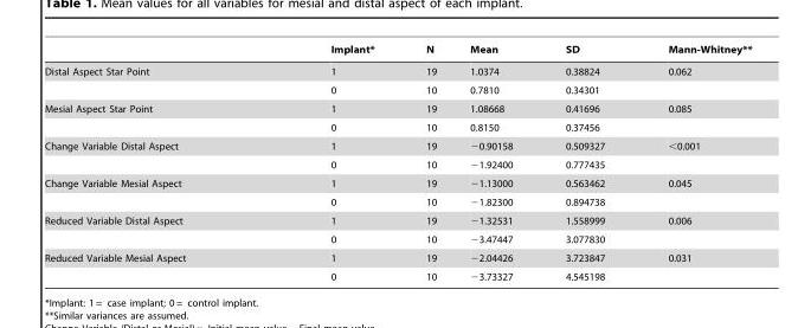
<table><thead><tr><td></td><td>Implant*</td><td>N</td><td>Mean</td><td>SD</td><td>Mann-Whitney**</td></tr></thead><tbody><tr><td rowspan="2">Distal Aspect Star Point</td><td>1</td><td>19</td><td>1.0374</td><td>0.38824</td><td>0.062</td></tr><tr><td>0</td><td>10</td><td>0.7810</td><td>0.34301</td><td></td></tr><tr><td rowspan="2">Mesial Aspect Star Point</td><td>1</td><td>19</td><td>1.08668</td><td>0.41696</td><td>0.085</td></tr><tr><td>0</td><td>10</td><td>0.8150</td><td>0.37456</td><td></td></tr><tr><td rowspan="2">Change Variable Distal Aspect</td><td>1</td><td>19</td><td>−0.90158</td><td>0.509327</td><td>&lt;0.001</td></tr><tr><td>0</td><td>10</td><td>−1.92400</td><td>0.777435</td><td></td></tr><tr><td rowspan="2">Change Variable Mesial Aspect</td><td>1</td><td>19</td><td>−1.13000</td><td>0.563462</td><td>0.045</td></tr><tr><td>0</td><td>10</td><td>−1.82300</td><td>0.894738</td><td></td></tr><tr><td rowspan="2">Reduced Variable Distal Aspect</td><td>1</td><td>19</td><td>−1.32531</td><td>1.558999</td><td>0.006</td></tr><tr><td>0</td><td>10</td><td>−3.47447</td><td>3.077830</td><td></td></tr><tr><td rowspan="2">Reduced Variable Mesial Aspect</td><td>1</td><td>19</td><td>−2.04426</td><td>3.723847</td><td>0.031</td></tr><tr><td>0</td><td>10</td><td>−3.73327</td><td>4.545198</td><td></td></tr></tbody></table>